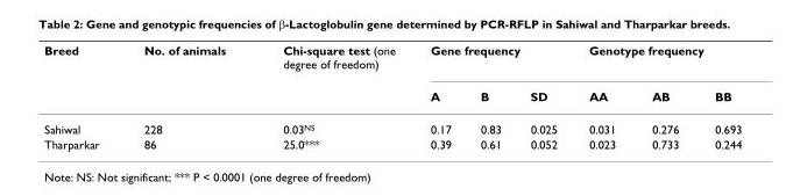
<table><thead><tr><td rowspan="2">Breed</td><td rowspan="2">No. of animals</td><td rowspan="2">Chi-square test (one degree of freedom)</td><td colspan="3">Gene frequency</td><td colspan="3">Genotype frequency</td></tr><tr><td>A</td><td>B</td><td>SD</td><td>AA</td><td>AB</td><td>BB</td></tr></thead><tbody><tr><td>Sahiwal</td><td>228</td><td>0.03<sup>NS</sup></td><td>0.17</td><td>0.83</td><td>0.025</td><td>0.031</td><td>0.276</td><td>0.693</td></tr><tr><td>Tharparkar</td><td>86</td><td>25.0***</td><td>0.39</td><td>0.61</td><td>0.052</td><td>0.023</td><td>0.733</td><td>0.244</td></tr></tbody></table>